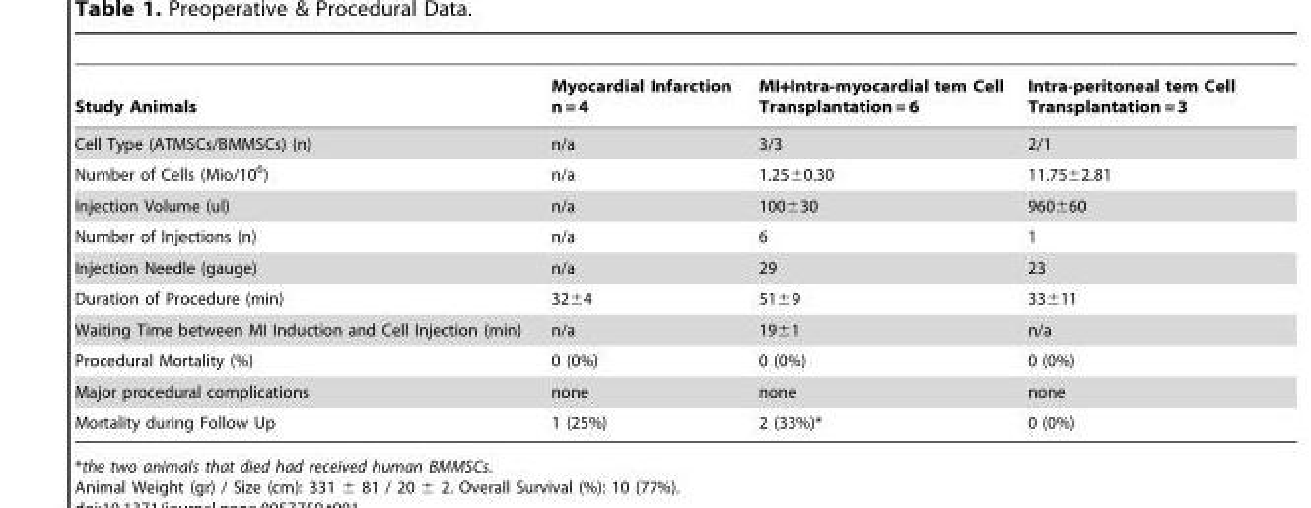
<table><thead><tr><td>Study Animals</td><td>Myocardial Infarction n = 4</td><td>MI+Intra-myocardial tem Cell Transplantation = 6</td><td>Intra-peritoneal tem Cell Transplantation = 3</td></tr></thead><tbody><tr><td>Cell Type (ATMSCs/BMMSCs) (n)</td><td>n/a</td><td>3/3</td><td>2/1</td></tr><tr><td>Number of Cells (Mio/10<sup>6</sup>)</td><td>n/a</td><td>1.25±0.30</td><td>11.75±2.81</td></tr><tr><td>Injection Volume (ul)</td><td>n/a</td><td>100±30</td><td>960±60</td></tr><tr><td>Number of Injections (n)</td><td>n/a</td><td>6</td><td>1</td></tr><tr><td>Injection Needle (gauge)</td><td>n/a</td><td>29</td><td>23</td></tr><tr><td>Duration of Procedure (min)</td><td>32±4</td><td>51±9</td><td>33±11</td></tr><tr><td>Waiting Time between MI Induction and Cell Injection (min)</td><td>n/a</td><td>19±1</td><td>n/a</td></tr><tr><td>Procedural Mortality (%)</td><td>0 (0%)</td><td>0 (0%)</td><td>0 (0%)</td></tr><tr><td>Major procedural complications</td><td>none</td><td>none</td><td>none</td></tr><tr><td>Mortality during Follow Up</td><td>1 (25%)</td><td>2 (33%)*</td><td>0 (0%)</td></tr></tbody></table>